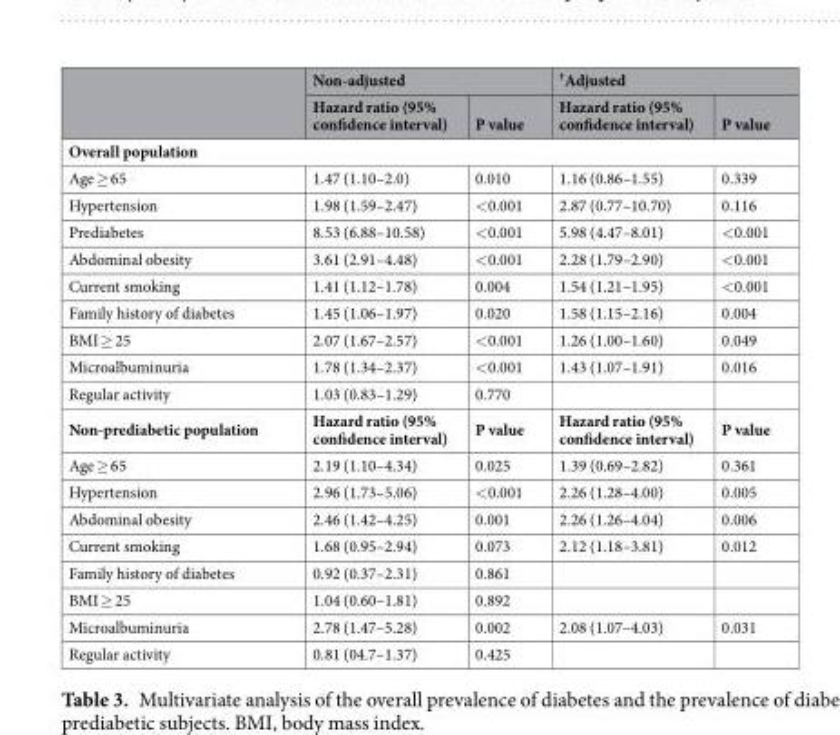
<table><thead><tr><td rowspan="2"></td><td colspan="2">Non-adjusted</td><td colspan="2"><sup>†</sup>Adjusted</td></tr><tr><td>Hazard ratio (95% confidence interval)</td><td>P value</td><td>Hazard ratio (95% confidence interval)</td><td>P value</td></tr></thead><tbody><tr><td colspan="5">Overall population</td></tr><tr><td>Age ≥ 65</td><td>1.47 (1.10–2.0)</td><td>0.010</td><td>1.16 (0.86–1.55)</td><td>0.339</td></tr><tr><td>Hypertension</td><td>1.98 (1.59–2.47)</td><td>&lt;0.001</td><td>2.87 (0.77–10.70)</td><td>0.116</td></tr><tr><td>Prediabetes</td><td>8.53 (6.88–10.58)</td><td>&lt;0.001</td><td>5.98 (4.47–8.01)</td><td>&lt;0.001</td></tr><tr><td>Abdominal obesity</td><td>3.61 (2.91–4.48)</td><td>&lt;0.001</td><td>2.28 (1.79–2.90)</td><td>&lt;0.001</td></tr><tr><td>Current smoking</td><td>1.41 (1.12–1.78)</td><td>0.004</td><td>1.54 (1.21–1.95)</td><td>&lt;0.001</td></tr><tr><td>Family history of diabetes</td><td>1.45 (1.06–1.97)</td><td>0.020</td><td>1.58 (1.15–2.16)</td><td>0.004</td></tr><tr><td>BMI ≥ 25</td><td>2.07 (1.67–2.57)</td><td>&lt;0.001</td><td>1.26 (1.00–1.60)</td><td>0.049</td></tr><tr><td>Microalbuminuria</td><td>1.78 (1.34–2.37)</td><td>&lt;0.001</td><td>1.43 (1.07–1.91)</td><td>0.016</td></tr><tr><td>Regular activity</td><td>1.03 (0.83–1.29)</td><td>0.770</td><td></td><td></td></tr><tr><td>Non-prediabetic population</td><td>Hazard ratio (95% confidence interval)</td><td>P value</td><td>Hazard ratio (95% confidence interval)</td><td>P value</td></tr><tr><td>Age ≥ 65</td><td>2.19 (1.10–4.34)</td><td>0.025</td><td>1.39 (0.69–2.82)</td><td>0.361</td></tr><tr><td>Hypertension</td><td>2.96 (1.73–5.06)</td><td>&lt;0.001</td><td>2.26 (1.28–4.00)</td><td>0.005</td></tr><tr><td>Abdominal obesity</td><td>2.46 (1.42–4.25)</td><td>0.001</td><td>2.26 (1.26–4.04)</td><td>0.006</td></tr><tr><td>Current smoking</td><td>1.68 (0.95–2.94)</td><td>0.073</td><td>2.12 (1.18–3.81)</td><td>0.012</td></tr><tr><td>Family history of diabetes</td><td>0.92 (0.37–2.31)</td><td>0.861</td><td></td><td></td></tr><tr><td>BMI ≥ 25</td><td>1.04 (0.60–1.81)</td><td>0.892</td><td></td><td></td></tr><tr><td>Microalbuminuria</td><td>2.78 (1.47–5.28)</td><td>0.002</td><td>2.08 (1.07–4.03)</td><td>0.031</td></tr><tr><td>Regular activity</td><td>0.81 (04.7–1.37)</td><td>0.425</td><td></td><td></td></tr></tbody></table>